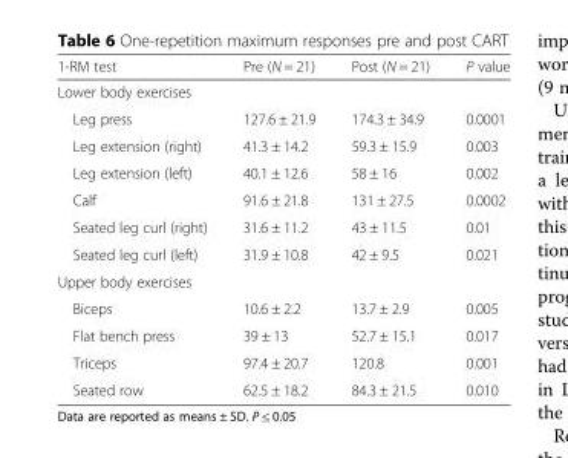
<table><thead><tr><td>1-RM test</td><td>Pre (N = 21)</td><td>Post (N = 21)</td><td>P value</td></tr></thead><tbody><tr><td colspan="4">Lower body exercises</td></tr><tr><td>Leg press</td><td>127.6 ± 21.9</td><td>174.3 ± 34.9</td><td>0.0001</td></tr><tr><td>Leg extension (right)</td><td>41.3 ± 14.2</td><td>59.3 ± 15.9</td><td>0.003</td></tr><tr><td>Leg extension (left)</td><td>40.1 ± 12.6</td><td>58 ± 16</td><td>0.002</td></tr><tr><td>Calf</td><td>91.6 ± 21.8</td><td>131 ± 27.5</td><td>0.0002</td></tr><tr><td>Seated leg curl (right)</td><td>31.6 ± 11.2</td><td>43 ± 11.5</td><td>0.01</td></tr><tr><td>Seated leg curl (left)</td><td>31.9 ± 10.8</td><td>42 ± 9.5</td><td>0.021</td></tr><tr><td colspan="4">Upper body exercises</td></tr><tr><td>Biceps</td><td>10.6 ± 2.2</td><td>13.7 ± 2.9</td><td>0.005</td></tr><tr><td>Flat bench press</td><td>39 ± 13</td><td>52.7 ± 15.1</td><td>0.017</td></tr><tr><td>Triceps</td><td>97.4 ± 20.7</td><td>120.8</td><td>0.001</td></tr><tr><td>Seated row</td><td>62.5 ± 18.2</td><td>84.3 ± 21.5</td><td>0.010</td></tr></tbody></table>